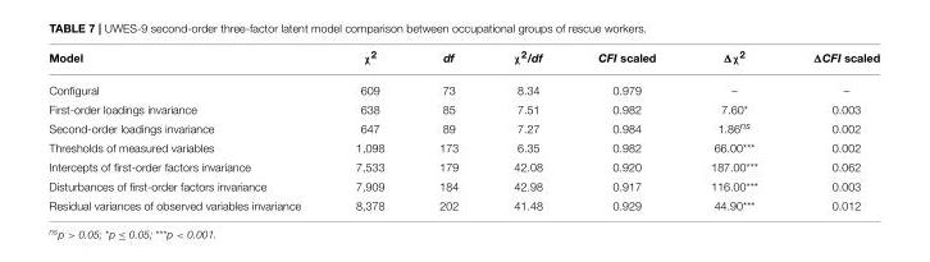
<table><thead><tr><td>Model</td><td>χ<sup>2</sup></td><td>df</td><td>χ<sup>2</sup>/df</td><td>CFI scaled</td><td>Δχ<sup>2</sup></td><td>ΔCFI scaled</td></tr></thead><tbody><tr><td>Configural</td><td>609</td><td>73</td><td>8.34</td><td>0.979</td><td>–</td><td>–</td></tr><tr><td>First-order loadings invariance</td><td>638</td><td>85</td><td>7.51</td><td>0.982</td><td>7.60*</td><td>0.003</td></tr><tr><td>Second-order loadings invariance</td><td>647</td><td>89</td><td>7.27</td><td>0.984</td><td>1.86<sup>ns</sup></td><td>0.002</td></tr><tr><td>Thresholds of measured variables</td><td>1,098</td><td>173</td><td>6.35</td><td>0.982</td><td>66.00***</td><td>0.002</td></tr><tr><td>Intercepts of first-order factors invariance</td><td>7,533</td><td>179</td><td>42.08</td><td>0.920</td><td>187.00***</td><td>0.062</td></tr><tr><td>Disturbances of first-order factors invariance</td><td>7,909</td><td>184</td><td>42.98</td><td>0.917</td><td>116.00***</td><td>0.003</td></tr><tr><td>Residual variances of observed variables invariance</td><td>8,378</td><td>202</td><td>41.48</td><td>0.929</td><td>44.90***</td><td>0.012</td></tr></tbody></table>